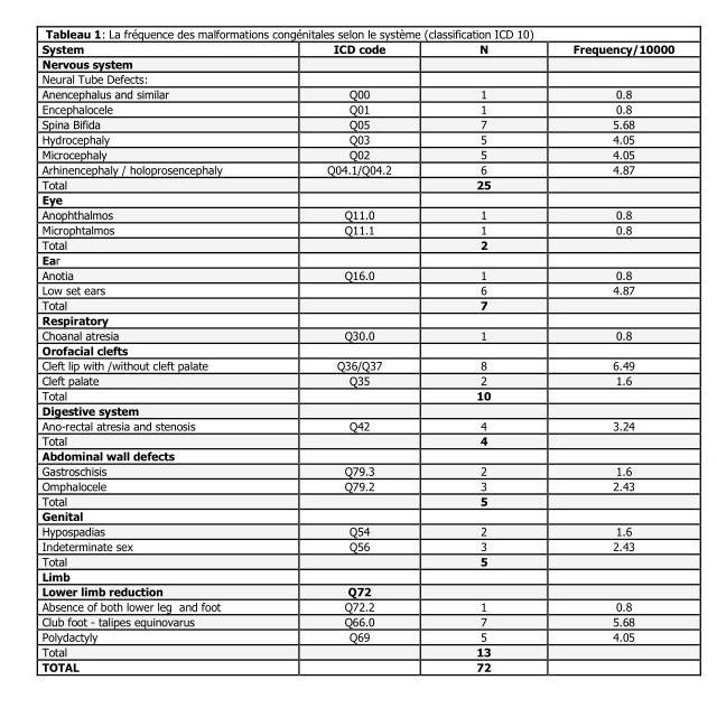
<table><thead><tr><td>System</td><td>ICD code</td><td>N</td><td>Frequency/10000</td></tr></thead><tbody><tr><td colspan="4">Nervous system</td></tr><tr><td colspan="4">Neural Tube Defects:</td></tr><tr><td>Anencephalus and similar</td><td>Q00</td><td>1</td><td>0.8</td></tr><tr><td>Encephalocele</td><td>Q01</td><td>1</td><td>0.8</td></tr><tr><td>Spina Bifida</td><td>Q05</td><td>7</td><td>5.68</td></tr><tr><td>Hydrocephaly</td><td>Q03</td><td>5</td><td>4.05</td></tr><tr><td>Microcephaly</td><td>Q02</td><td>5</td><td>4.05</td></tr><tr><td>Arhinencephaly / holoprosencephaly</td><td>Q04.1/Q04.2</td><td>6</td><td>4.87</td></tr><tr><td>Total</td><td></td><td>25</td><td></td></tr><tr><td colspan="4">Eye</td></tr><tr><td>Anophthalmos</td><td>Q11.0</td><td>1</td><td>0.8</td></tr><tr><td>Microphtalmos</td><td>Q11.1</td><td>1</td><td>0.8</td></tr><tr><td>Total</td><td></td><td>2</td><td></td></tr><tr><td colspan="4">Ear</td></tr><tr><td>Anotia</td><td>Q16.0</td><td>1</td><td>0.8</td></tr><tr><td>Low set ears</td><td></td><td>6</td><td>4.87</td></tr><tr><td>Total</td><td></td><td>7</td><td></td></tr><tr><td colspan="4">Respiratory</td></tr><tr><td>Choanal atresia</td><td>Q30.0</td><td>1</td><td>0.8</td></tr><tr><td colspan="4">Orofacial clefts</td></tr><tr><td>Cleft lip with /without cleft palate</td><td>Q36/Q37</td><td>8</td><td>6.49</td></tr><tr><td>Cleft palate</td><td>Q35</td><td>2</td><td>1.6</td></tr><tr><td>Total</td><td></td><td>10</td><td></td></tr><tr><td colspan="4">Digestive system</td></tr><tr><td>Ano-rectal atresia and stenosis</td><td>Q42</td><td>4</td><td>3.24</td></tr><tr><td>Total</td><td></td><td>4</td><td></td></tr><tr><td colspan="4">Abdominal wall defects</td></tr><tr><td>Gastroschisis</td><td>Q79.3</td><td>2</td><td>1.6</td></tr><tr><td>Omphalocele</td><td>Q79.2</td><td>3</td><td>2.43</td></tr><tr><td>Total</td><td></td><td>5</td><td></td></tr><tr><td colspan="4">Genital</td></tr><tr><td>Hypospadias</td><td>Q54</td><td>2</td><td>1.6</td></tr><tr><td>Indeterminate sex</td><td>Q56</td><td>3</td><td>2.43</td></tr><tr><td>Total</td><td></td><td>5</td><td></td></tr><tr><td colspan="4">Limb</td></tr><tr><td>Lower limb reduction</td><td>Q72</td><td></td><td></td></tr><tr><td>Absence of both lower leg and foot</td><td>Q72.2</td><td>1</td><td>0.8</td></tr><tr><td>Club foot - talipes equinovarus</td><td>Q66.0</td><td>7</td><td>5.68</td></tr><tr><td>Polydactyly</td><td>Q69</td><td>5</td><td>4.05</td></tr><tr><td>Total</td><td></td><td>13</td><td></td></tr><tr><td>TOTAL</td><td></td><td>72</td><td></td></tr></tbody></table>